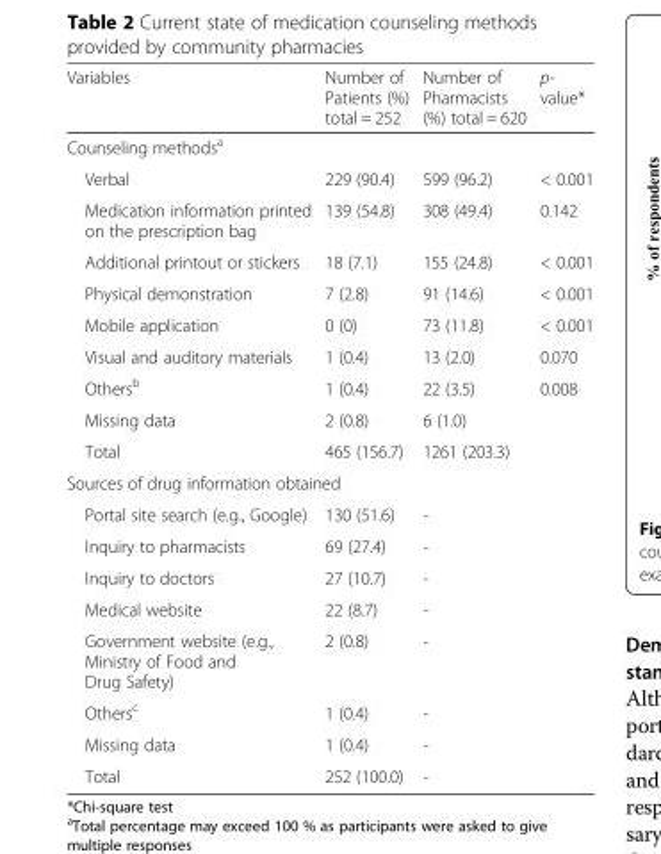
<table><thead><tr><td>Variables</td><td>Number of Patients (%) total = 252</td><td>Number of Pharmacists (%) total = 620</td><td>p- value*</td></tr></thead><tbody><tr><td colspan="4">Counseling methods<sup>a</sup></td></tr><tr><td>Verbal</td><td>229 (90.4)</td><td>599 (96.2)</td><td>&lt; 0.001</td></tr><tr><td>Medication information printed on the prescription bag</td><td>139 (54.8)</td><td>308 (49.4)</td><td>0.142</td></tr><tr><td>Additional printout or stickers</td><td>18 (7.1)</td><td>155 (24.8)</td><td>&lt; 0.001</td></tr><tr><td>Physical demonstration</td><td>7 (2.8)</td><td>91 (14.6)</td><td>&lt; 0.001</td></tr><tr><td>Mobile application</td><td>0 (0)</td><td>73 (11.8)</td><td>&lt; 0.001</td></tr><tr><td>Visual and auditory materials</td><td>1 (0.4)</td><td>13 (2.0)</td><td>0.070</td></tr><tr><td>Others<sup>b</sup></td><td>1 (0.4)</td><td>22 (3.5)</td><td>0.008</td></tr><tr><td>Missing data</td><td>2 (0.8)</td><td>6 (1.0)</td><td></td></tr><tr><td>Total</td><td>465 (156.7)</td><td>1261 (203.3)</td><td></td></tr><tr><td colspan="4">Sources of drug information obtained</td></tr><tr><td>Portal site search (e.g., Google)</td><td>130 (51.6)</td><td>-</td><td></td></tr><tr><td>Inquiry to pharmacists</td><td>69 (27.4)</td><td>-</td><td></td></tr><tr><td>Inquiry to doctors</td><td>27 (10.7)</td><td>-</td><td></td></tr><tr><td>Medical website</td><td>22 (8.7)</td><td>-</td><td></td></tr><tr><td>Government website (e.g., Ministry of Food and Drug Safety)</td><td>2 (0.8)</td><td>-</td><td></td></tr><tr><td>Others<sup>c</sup></td><td>1 (0.4)</td><td>-</td><td></td></tr><tr><td>Missing data</td><td>1 (0.4)</td><td>-</td><td></td></tr><tr><td>Total</td><td>252 (100.0)</td><td>-</td><td></td></tr></tbody></table>